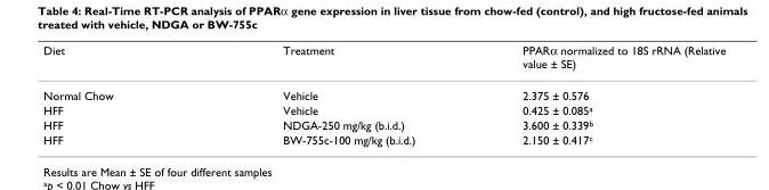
<table><thead><tr><td>Diet</td><td>Treatment</td><td>PPARα normalized to 18S rRNA (Relative value ± SE)</td></tr></thead><tbody><tr><td>Normal Chow</td><td>Vehicle</td><td>2.375 ± 0.576</td></tr><tr><td>HFF</td><td>Vehicle</td><td>0.425 ± 0.085<sup>a</sup></td></tr><tr><td>HFF</td><td>NDGA-250 mg/kg (b.i.d.)</td><td>3.600 ± 0.339<sup>b</sup></td></tr><tr><td>HFF</td><td>BW-755c-100 mg/kg (b.i.d.)</td><td>2.150 ± 0.417<sup>c</sup></td></tr></tbody></table>